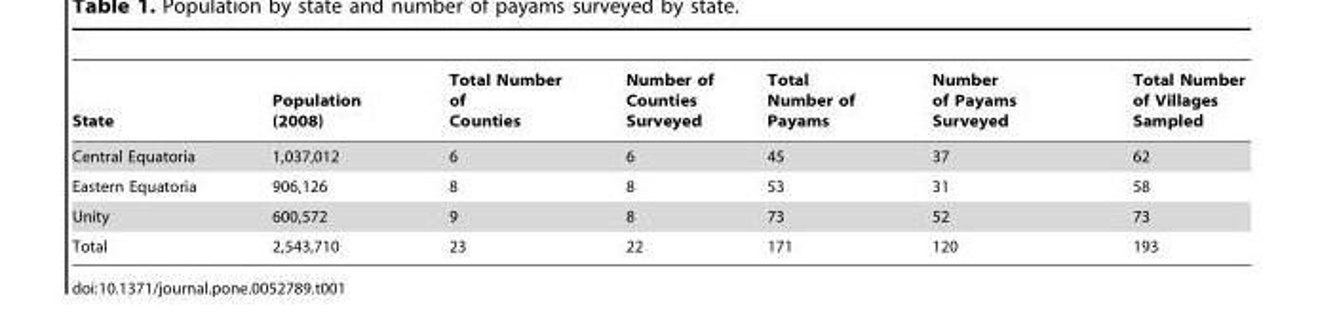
<table><thead><tr><td>State</td><td>Population (2008)</td><td>Total Number of Counties</td><td>Number of Counties Surveyed</td><td>Total Number of Payams</td><td>Number of Payams Surveyed</td><td>Total Number of Villages Sampled</td></tr></thead><tbody><tr><td>Central Equatoria</td><td>1,037,012</td><td>6</td><td>6</td><td>45</td><td>37</td><td>62</td></tr><tr><td>Eastern Equatoria</td><td>906,126</td><td>8</td><td>8</td><td>53</td><td>31</td><td>58</td></tr><tr><td>Unity</td><td>600,572</td><td>9</td><td>8</td><td>73</td><td>52</td><td>73</td></tr><tr><td>Total</td><td>2,543,710</td><td>23</td><td>22</td><td>171</td><td>120</td><td>193</td></tr></tbody></table>